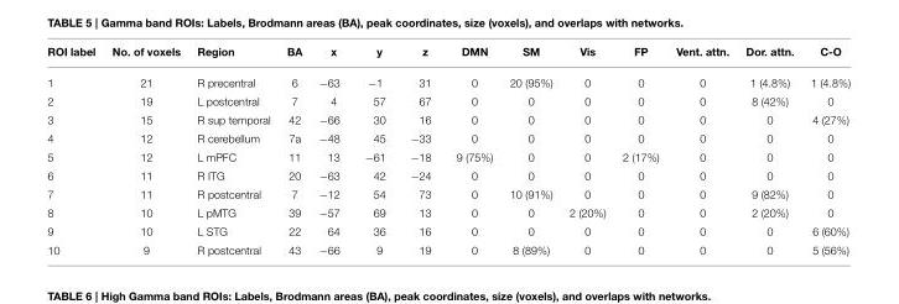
<table><thead><tr><td>ROI label</td><td>No. of voxels</td><td>Region</td><td>BA</td><td>x</td><td>y</td><td>z</td><td>DMN</td><td>SM</td><td>Vis</td><td>FP</td><td>Vent. attn.</td><td>Dor. attn.</td><td>C-O</td></tr></thead><tbody><tr><td>1</td><td>21</td><td>R precentral</td><td>6</td><td>−63</td><td>−1</td><td>31</td><td>0</td><td>20 (95%)</td><td>0</td><td>0</td><td>0</td><td>1 (4.8%)</td><td>1 (4.8%)</td></tr><tr><td>2</td><td>19</td><td>L postcentral</td><td>7</td><td>4</td><td>57</td><td>67</td><td>0</td><td>0</td><td>0</td><td>0</td><td>0</td><td>8 (42%)</td><td>0</td></tr><tr><td>3</td><td>15</td><td>R sup temporal</td><td>42</td><td>−66</td><td>30</td><td>16</td><td>0</td><td>0</td><td>0</td><td>0</td><td>0</td><td>0</td><td>4 (27%)</td></tr><tr><td>4</td><td>12</td><td>R cerebellum</td><td>7a</td><td>−48</td><td>45</td><td>−33</td><td>0</td><td>0</td><td>0</td><td>0</td><td>0</td><td>0</td><td>0</td></tr><tr><td>5</td><td>12</td><td>L mPFC</td><td>11</td><td>13</td><td>−61</td><td>−18</td><td>9 (75%)</td><td>0</td><td>0</td><td>2 (17%)</td><td>0</td><td>0</td><td>0</td></tr><tr><td>6</td><td>11</td><td>R ITG</td><td>20</td><td>−63</td><td>42</td><td>−24</td><td>0</td><td>0</td><td>0</td><td>0</td><td>0</td><td>0</td><td>0</td></tr><tr><td>7</td><td>11</td><td>R postcentral</td><td>7</td><td>−12</td><td>54</td><td>73</td><td>0</td><td>10 (91%)</td><td>0</td><td>0</td><td>0</td><td>9 (82%)</td><td>0</td></tr><tr><td>8</td><td>10</td><td>L pMTG</td><td>39</td><td>−57</td><td>69</td><td>13</td><td>0</td><td>0</td><td>2 (20%)</td><td>0</td><td>0</td><td>2 (20%)</td><td>0</td></tr><tr><td>9</td><td>10</td><td>L STG</td><td>22</td><td>64</td><td>36</td><td>16</td><td>0</td><td>0</td><td>0</td><td>0</td><td>0</td><td>0</td><td>6 (60%)</td></tr><tr><td>10</td><td>9</td><td>R postcentral</td><td>43</td><td>−66</td><td>9</td><td>19</td><td>0</td><td>8 (89%)</td><td>0</td><td>0</td><td>0</td><td>0</td><td>5 (56%)</td></tr></tbody></table>